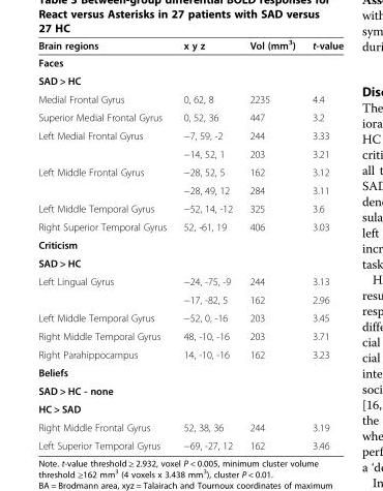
<table><thead><tr><td>Brain regions</td><td>x y z</td><td>Vol (mm<sup>3</sup>)</td><td>t-value</td></tr></thead><tbody><tr><td colspan="4">Faces</td></tr><tr><td colspan="4">SAD &gt; HC</td></tr><tr><td>Medial Frontal Gyrus</td><td>0, 62, 8</td><td>2235</td><td>4.4</td></tr><tr><td>Superior Medial Frontal Gyrus</td><td>0, 52, 36</td><td>447</td><td>3.2</td></tr><tr><td rowspan="2">Left Medial Frontal Gyrus</td><td>−7, 59, -2</td><td>244</td><td>3.33</td></tr><tr><td>−14, 52, 1</td><td>203</td><td>3.21</td></tr><tr><td rowspan="2">Left Middle Frontal Gyrus</td><td>−28, 52, 5</td><td>162</td><td>3.12</td></tr><tr><td>−28, 49, 12</td><td>284</td><td>3.11</td></tr><tr><td>Left Middle Temporal Gyrus</td><td>−52, 14, -12</td><td>325</td><td>3.6</td></tr><tr><td>Right Superior Temporal Gyrus</td><td>52, -61, 19</td><td>406</td><td>3.03</td></tr><tr><td colspan="4">Criticism</td></tr><tr><td colspan="4">SAD &gt; HC</td></tr><tr><td rowspan="2">Left Lingual Gyrus</td><td>−24, -75, -9</td><td>244</td><td>3.13</td></tr><tr><td>−17, -82, 5</td><td>162</td><td>2.96</td></tr><tr><td>Left Middle Temporal Gyrus</td><td>−52, 0, -16</td><td>203</td><td>3.45</td></tr><tr><td>Right Middle Temporal Gyrus</td><td>48, -10, -16</td><td>203</td><td>3.71</td></tr><tr><td>Right Parahippocampus</td><td>14, -10, -16</td><td>162</td><td>3.23</td></tr><tr><td colspan="4">Beliefs</td></tr><tr><td colspan="4">SAD &gt; HC - none</td></tr><tr><td colspan="4">HC &gt; SAD</td></tr><tr><td>Right Middle Frontal Gyrus</td><td>52, 38, 36</td><td>244</td><td>3.19</td></tr><tr><td>Left Superior Temporal Gyrus</td><td>−69, -27, 12</td><td>162</td><td>3.46</td></tr></tbody></table>